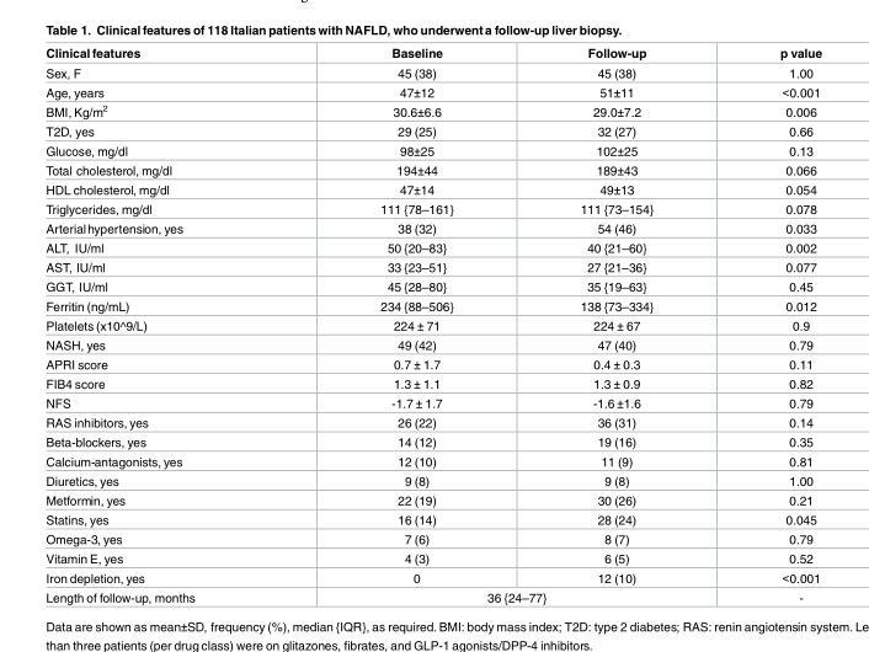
<table><thead><tr><td>Clinical features</td><td>Baseline</td><td>Follow-up</td><td>p value</td></tr></thead><tbody><tr><td>Sex, F</td><td>45 (38)</td><td>45 (38)</td><td>1.00</td></tr><tr><td>Age, years</td><td>47±12</td><td>51±11</td><td>&lt;0.001</td></tr><tr><td>BMI, Kg/m<sup>2</sup></td><td>30.6±6.6</td><td>29.0±7.2</td><td>0.006</td></tr><tr><td>T2D, yes</td><td>29 (25)</td><td>32 (27)</td><td>0.66</td></tr><tr><td>Glucose, mg/dl</td><td>98±25</td><td>102±25</td><td>0.13</td></tr><tr><td>Total cholesterol, mg/dl</td><td>194±44</td><td>189±43</td><td>0.066</td></tr><tr><td>HDL cholesterol, mg/dl</td><td>47±14</td><td>49±13</td><td>0.054</td></tr><tr><td>Triglycerides, mg/dl</td><td>111 {78–161}</td><td>111 {73–154}</td><td>0.078</td></tr><tr><td>Arterialhypertension, yes</td><td>38 (32)</td><td>54 (46)</td><td>0.033</td></tr><tr><td>ALT, IU/ml</td><td>50 {20–83}</td><td>40 {21–60}</td><td>0.002</td></tr><tr><td>AST, IU/ml</td><td>33 {23–51}</td><td>27 {21–36}</td><td>0.077</td></tr><tr><td>GGT, IU/ml</td><td>45 {28–80}</td><td>35 {19–63}</td><td>0.45</td></tr><tr><td>Ferritin (ng/mL)</td><td>234 {88–506}</td><td>138 {73–334}</td><td>0.012</td></tr><tr><td>Platelets (x10^9/L)</td><td>224 ± 71</td><td>224 ± 67</td><td>0.9</td></tr><tr><td>NASH, yes</td><td>49 (42)</td><td>47 (40)</td><td>0.79</td></tr><tr><td>APRI score</td><td>0.7 ± 1.7</td><td>0.4 ± 0.3</td><td>0.11</td></tr><tr><td>FIB4 score</td><td>1.3 ± 1.1</td><td>1.3 ± 0.9</td><td>0.82</td></tr><tr><td>NFS</td><td>-1.7 ± 1.7</td><td>-1.6 ±1.6</td><td>0.79</td></tr><tr><td>RAS inhibitors, yes</td><td>26 (22)</td><td>36 (31)</td><td>0.14</td></tr><tr><td>Beta-blockers, yes</td><td>14 (12)</td><td>19 (16)</td><td>0.35</td></tr><tr><td>Calcium-antagonists, yes</td><td>12 (10)</td><td>11 (9)</td><td>0.81</td></tr><tr><td>Diuretics, yes</td><td>9 (8)</td><td>9 (8)</td><td>1.00</td></tr><tr><td>Metformin, yes</td><td>22 (19)</td><td>30 (26)</td><td>0.21</td></tr><tr><td>Statins, yes</td><td>16 (14)</td><td>28 (24)</td><td>0.045</td></tr><tr><td>Omega-3, yes</td><td>7 (6)</td><td>8 (7)</td><td>0.79</td></tr><tr><td>Vitamin E, yes</td><td>4 (3)</td><td>6 (5)</td><td>0.52</td></tr><tr><td>Iron depletion, yes</td><td>0</td><td>12 (10)</td><td>&lt;0.001</td></tr><tr><td>Length of follow-up, months</td><td colspan="2">36 {24–77}</td><td>-</td></tr></tbody></table>